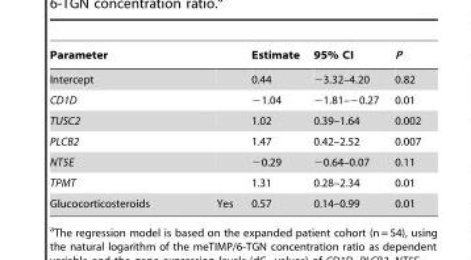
<table><thead><tr><td>Parameter</td><td></td><td>Estimate</td><td>95% CI</td><td>P</td></tr></thead><tbody><tr><td>Intercept</td><td></td><td>0.44</td><td>−3.32–4.20</td><td>0.82</td></tr><tr><td>CD1D</td><td></td><td>−1.04</td><td>−1.81–−0.27</td><td>0.01</td></tr><tr><td>TUSC2</td><td></td><td>1.02</td><td>0.39–1.64</td><td>0.002</td></tr><tr><td>PLCB2</td><td></td><td>1.47</td><td>0.42–2.52</td><td>0.007</td></tr><tr><td>NT5E</td><td></td><td>−0.29</td><td>−0.64–0.07</td><td>0.11</td></tr><tr><td>TPMT</td><td></td><td>1.31</td><td>0.28–2.34</td><td>0.01</td></tr><tr><td>Glucocorticosteroids</td><td>Yes</td><td>0.57</td><td>0.14–0.99</td><td>0.01</td></tr></tbody></table>